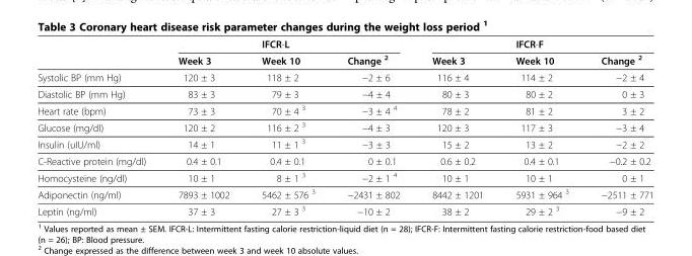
<table><thead><tr><td rowspan="2"></td><td rowspan="2">Week 3</td><td rowspan="2">IFCR-L Week 10</td><td rowspan="2">Change <sup>2</sup></td><td rowspan="2">Week 3</td><td rowspan="2">IFCR-F Week 10</td><td rowspan="2">Change <sup>2</sup></td></tr><tr></tr></thead><tbody><tr><td>Systolic BP (mm Hg)</td><td>120 ± 3</td><td>118 ± 2</td><td>−2 ± 6</td><td>116 ± 4</td><td>114 ± 2</td><td>−2 ± 4</td></tr><tr><td>Diastolic BP (mm Hg)</td><td>83 ± 3</td><td>79 ± 3</td><td>−4 ± 4</td><td>80 ± 3</td><td>80 ± 2</td><td>0 ± 3</td></tr><tr><td>Heart rate (bpm)</td><td>73 ± 3</td><td>70 ± 4 <sup>3</sup></td><td>−3 ± 4 <sup>4</sup></td><td>78 ± 2</td><td>81 ± 2</td><td>3 ± 2</td></tr><tr><td>Glucose (mg/dl)</td><td>120 ± 2</td><td>116 ± 2 <sup>3</sup></td><td>−4 ± 3</td><td>120 ± 3</td><td>117 ± 3</td><td>−3 ± 4</td></tr><tr><td>Insulin (uIU/ml)</td><td>14 ± 1</td><td>11 ± 1 <sup>3</sup></td><td>−3 ± 3</td><td>15 ± 2</td><td>13 ± 2</td><td>−2 ± 2</td></tr><tr><td>C-Reactive protein (mg/dl)</td><td>0.4 ± 0.1</td><td>0.4 ± 0.1</td><td>0 ± 0.1</td><td>0.6 ± 0.2</td><td>0.4 ± 0.1</td><td>−0.2 ± 0.2</td></tr><tr><td>Homocysteine (ng/dl)</td><td>10 ± 1</td><td>8 ± 1 <sup>3</sup></td><td>−2 ± 1 <sup>4</sup></td><td>10 ± 1</td><td>10 ± 1</td><td>0 ± 1</td></tr><tr><td>Adiponectin (ng/ml)</td><td>7893 ± 1002</td><td>5462 ± 576 <sup>3</sup></td><td>−2431 ± 802</td><td>8442 ± 1201</td><td>5931 ± 964 <sup>3</sup></td><td>−2511 ± 771</td></tr><tr><td>Leptin (ng/ml)</td><td>37 ± 3</td><td>27 ± 3 <sup>3</sup></td><td>−10 ± 2</td><td>38 ± 2</td><td>29 ± 2 <sup>3</sup></td><td>−9 ± 2</td></tr></tbody></table>